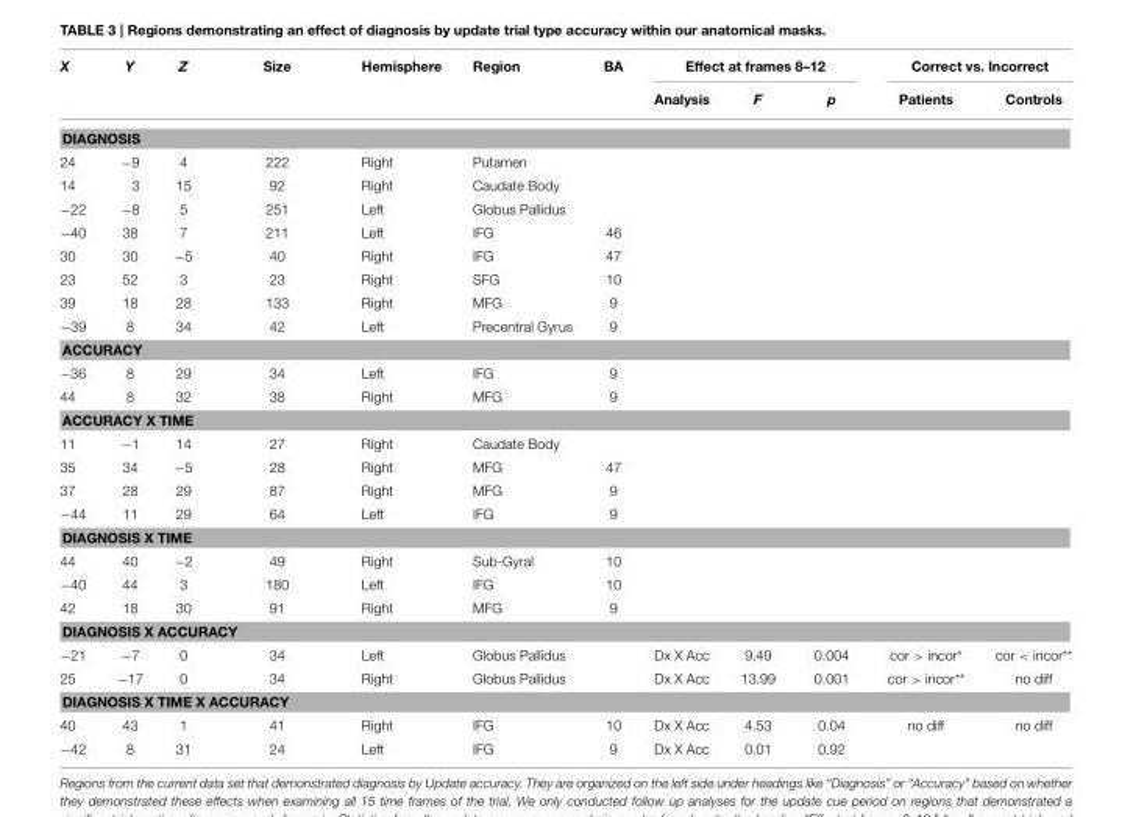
<table><thead><tr><td rowspan="2">X</td><td rowspan="2">Y</td><td rowspan="2">Z</td><td rowspan="2">Size</td><td rowspan="2">Hemisphere</td><td rowspan="2">Region</td><td rowspan="2">BA</td><td colspan="3">Effect at frames 8–12</td><td colspan="2">Correct vs. Incorrect</td></tr><tr><td>Analysis</td><td>F</td><td>p</td><td>Patients</td><td>Controls</td></tr></thead><tbody><tr><td colspan="12">DIAGNOSIS</td></tr><tr><td>24</td><td>−9</td><td>4</td><td>222</td><td>Right</td><td>Putamen</td><td colspan="6"></td></tr><tr><td>14</td><td>3</td><td>15</td><td>92</td><td>Right</td><td>Caudate Body</td><td colspan="6"></td></tr><tr><td>−22</td><td>−8</td><td>5</td><td>251</td><td>Left</td><td>Globus Pallidus</td><td colspan="6"></td></tr><tr><td>−40</td><td>38</td><td>7</td><td>211</td><td>Left</td><td>IFG</td><td>46</td><td colspan="5"></td></tr><tr><td>30</td><td>30</td><td>−5</td><td>40</td><td>Right</td><td>IFG</td><td>47</td><td colspan="5"></td></tr><tr><td>23</td><td>52</td><td>3</td><td>23</td><td>Right</td><td>SFG</td><td>10</td><td colspan="5"></td></tr><tr><td>39</td><td>18</td><td>28</td><td>133</td><td>Right</td><td>MFG</td><td>9</td><td colspan="5"></td></tr><tr><td>−39</td><td>8</td><td>34</td><td>42</td><td>Left</td><td>Precentral Gyrus</td><td>9</td><td colspan="5"></td></tr><tr><td colspan="12">ACCURACY</td></tr><tr><td>−36</td><td>8</td><td>29</td><td>34</td><td>Left</td><td>IFG</td><td>9</td><td colspan="5"></td></tr><tr><td>44</td><td>8</td><td>32</td><td>38</td><td>Right</td><td>MFG</td><td>9</td><td colspan="5"></td></tr><tr><td colspan="12">ACCURACY X TIME</td></tr><tr><td>11</td><td>−1</td><td>14</td><td>27</td><td>Right</td><td>Caudate Body</td><td></td><td colspan="5"></td></tr><tr><td>35</td><td>34</td><td>−5</td><td>28</td><td>Right</td><td>MFG</td><td>47</td><td colspan="5"></td></tr><tr><td>37</td><td>28</td><td>29</td><td>87</td><td>Right</td><td>MFG</td><td>9</td><td colspan="5"></td></tr><tr><td>−44</td><td>11</td><td>29</td><td>64</td><td>Left</td><td>IFG</td><td>9</td><td colspan="5"></td></tr><tr><td colspan="12">DIAGNOSIS X TIME</td></tr><tr><td>44</td><td>40</td><td>−2</td><td>49</td><td>Right</td><td>Sub-Gyral</td><td>10</td><td colspan="5"></td></tr><tr><td>−40</td><td>44</td><td>3</td><td>180</td><td>Left</td><td>IFG</td><td>10</td><td colspan="5"></td></tr><tr><td>42</td><td>18</td><td>30</td><td>91</td><td>Right</td><td>MFG</td><td>9</td><td colspan="5"></td></tr><tr><td colspan="12">DIAGNOSIS X ACCURACY</td></tr><tr><td>−21</td><td>−7</td><td>0</td><td>34</td><td>Left</td><td>Globus Pallidus</td><td></td><td>Dx X Acc</td><td>9.49</td><td>0.004</td><td>cor &gt; incor*</td><td>cor &lt; incor**</td></tr><tr><td>25</td><td>−17</td><td>0</td><td>34</td><td>Right</td><td>Globus Pallidus</td><td></td><td>Dx X Acc</td><td>13.99</td><td>0.001</td><td>cor &gt; incor**</td><td>no diff</td></tr><tr><td colspan="12">DIAGNOSIS X TIME X ACCURACY</td></tr><tr><td>40</td><td>43</td><td>1</td><td>41</td><td>Right</td><td>IFG</td><td>10</td><td>Dx X Acc</td><td>4.53</td><td>0.04</td><td>no diff</td><td>no diff</td></tr><tr><td>−42</td><td>8</td><td>31</td><td>24</td><td>Left</td><td>IFG</td><td>9</td><td>Dx X Acc</td><td>0.01</td><td>0.92</td><td></td><td></td></tr></tbody></table>